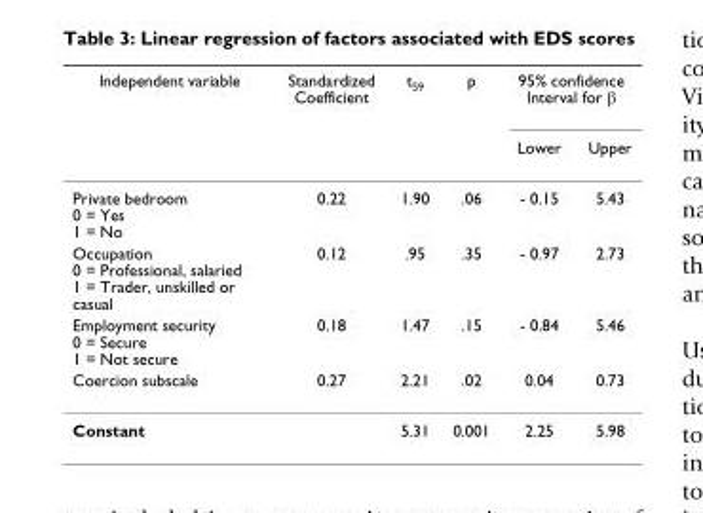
<table><thead><tr><td rowspan="2">Independent variable</td><td rowspan="2">Standardized Coefficient</td><td rowspan="2">t<sub>59</sub></td><td rowspan="2">p</td><td colspan="2">95% confidence Interval for β</td></tr><tr><td>Lower</td><td>Upper</td></tr></thead><tbody><tr><td>Private bedroom 0 = Yes 1 = No</td><td>0.22</td><td>1.90</td><td>.06</td><td>- 0.15</td><td>5.43</td></tr><tr><td>Occupation 0 = Professional, salaried 1 = Trader, unskilled or casual</td><td>0.12</td><td>.95</td><td>.35</td><td>- 0.97</td><td>2.73</td></tr><tr><td>Employment security 0 = Secure 1 = Not secure</td><td>0.18</td><td>1.47</td><td>.15</td><td>- 0.84</td><td>5.46</td></tr><tr><td>Coercion subscale</td><td>0.27</td><td>2.21</td><td>.02</td><td>0.04</td><td>0.73</td></tr><tr><td>Constant</td><td></td><td>5.31</td><td>0.001</td><td>2.25</td><td>5.98</td></tr></tbody></table>